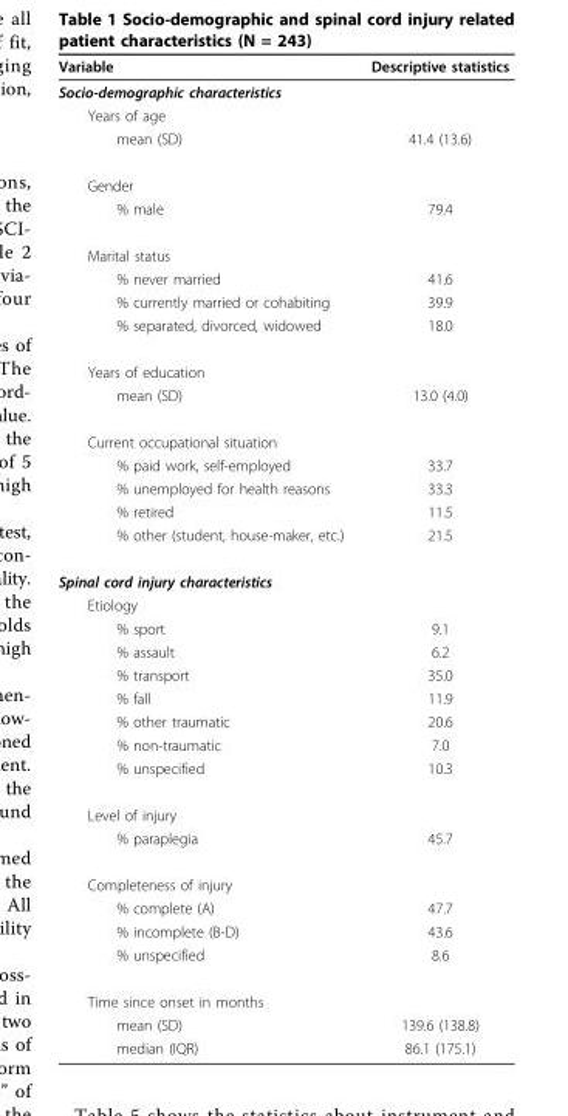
<table><thead><tr><td>Variable</td><td>Descriptive statistics</td></tr></thead><tbody><tr><td colspan="2">Socio-demographic characteristics</td></tr><tr><td colspan="2">Years of age</td></tr><tr><td>mean (SD)</td><td>41.4 (13.6)</td></tr><tr><td colspan="2">Gender</td></tr><tr><td>% male</td><td>79.4</td></tr><tr><td colspan="2">Marital status</td></tr><tr><td>% never married</td><td>41.6</td></tr><tr><td>% currently married or cohabiting</td><td>39.9</td></tr><tr><td>% separated, divorced, widowed</td><td>18.0</td></tr><tr><td colspan="2">Years of education</td></tr><tr><td>mean (SD)</td><td>13.0 (4.0)</td></tr><tr><td colspan="2">Current occupational situation</td></tr><tr><td>% paid work, self-employed</td><td>33.7</td></tr><tr><td>% unemployed for health reasons</td><td>33.3</td></tr><tr><td>% retired</td><td>11.5</td></tr><tr><td>% other (student, house-maker, etc.)</td><td>21.5</td></tr><tr><td colspan="2">Spinal cord injury characteristics</td></tr><tr><td colspan="2">Etiology</td></tr><tr><td>% sport</td><td>9.1</td></tr><tr><td>% assault</td><td>6.2</td></tr><tr><td>% transport</td><td>35.0</td></tr><tr><td>% fall</td><td>11.9</td></tr><tr><td>% other traumatic</td><td>20.6</td></tr><tr><td>% non-traumatic</td><td>7.0</td></tr><tr><td>% unspecified</td><td>10.3</td></tr><tr><td colspan="2">Level of injury</td></tr><tr><td>% paraplegia</td><td>45.7</td></tr><tr><td colspan="2">Completeness of injury</td></tr><tr><td>% complete (A)</td><td>47.7</td></tr><tr><td>% incomplete (B-D)</td><td>43.6</td></tr><tr><td>% unspecified</td><td>8.6</td></tr><tr><td colspan="2">Time since onset in months</td></tr><tr><td>mean (SD)</td><td>139.6 (138.8)</td></tr><tr><td>median (IQR)</td><td>86.1 (175.1)</td></tr></tbody></table>